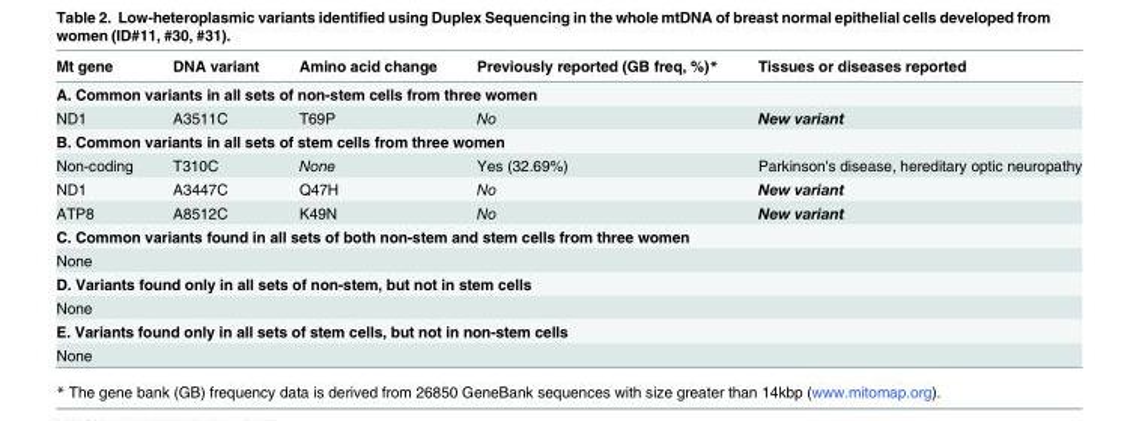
<table><thead><tr><td>Mt gene</td><td>DNA variant</td><td>Amino acid change</td><td>Previously reported (GB freq, %)*</td><td>Tissues or diseases reported</td></tr></thead><tbody><tr><td colspan="5">A. Common variants in all sets of non-stem cells from three women</td></tr><tr><td>ND1</td><td>A3511C</td><td>T69P</td><td>No</td><td>New variant</td></tr><tr><td colspan="5">B. Common variants in all sets of stem cells from three women</td></tr><tr><td>Non-coding</td><td>T310C</td><td>None</td><td>Yes (32.69%)</td><td>Parkinson&#x27;s disease, hereditary optic neuropathy</td></tr><tr><td>ND1</td><td>A3447C</td><td>Q47H</td><td>No</td><td>New variant</td></tr><tr><td>ATP8</td><td>A8512C</td><td>K49N</td><td>No</td><td>New variant</td></tr><tr><td colspan="5">C. Common variants found in all sets of both non-stem and stem cells from three women</td></tr><tr><td colspan="5">None</td></tr><tr><td colspan="5">D. Variants found only in all sets of non-stem, but not in stem cells</td></tr><tr><td colspan="5">None</td></tr><tr><td colspan="5">E. Variants found only in all sets of stem cells, but not in non-stem cells</td></tr><tr><td>None</td><td></td><td></td><td></td><td></td></tr></tbody></table>